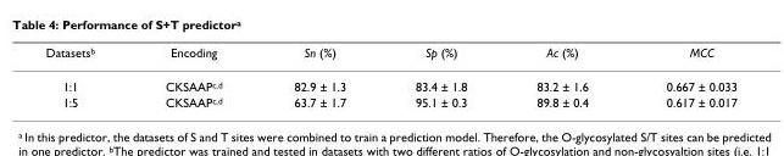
<table><thead><tr><td>Datasets<sup>b</sup></td><td>Encoding</td><td>Sn (%)</td><td>Sp (%)</td><td>Ac (%)</td><td>MCC</td></tr></thead><tbody><tr><td>1:1</td><td>CKSAAP<sup>c,d</sup></td><td>82.9 ± 1.3</td><td>83.4 ± 1.8</td><td>83.2 ± 1.6</td><td>0.667 ± 0.033</td></tr><tr><td>1:5</td><td>CKSAAP<sup>c,d</sup></td><td>63.7 ± 1.7</td><td>95.1 ± 0.3</td><td>89.8 ± 0.4</td><td>0.617 ± 0.017</td></tr></tbody></table>